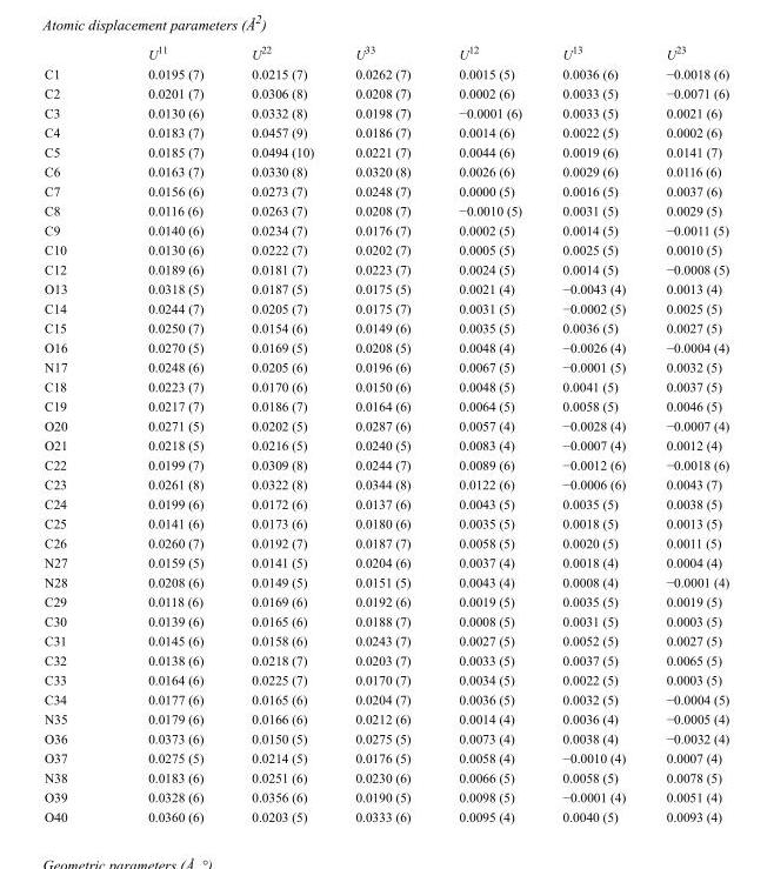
<table><thead><tr><td></td><td>U<sup>11</sup></td><td>U<sup>22</sup></td><td>U<sup>33</sup></td><td>U<sup>12</sup></td><td>U<sup>13</sup></td><td>U<sup>23</sup></td></tr></thead><tbody><tr><td>C1</td><td>0.0195 (7)</td><td>0.0215 (7)</td><td>0.0262 (7)</td><td>0.0015 (5)</td><td>0.0036 (6)</td><td>−0.0018 (6)</td></tr><tr><td>C2</td><td>0.0201 (7)</td><td>0.0306 (8)</td><td>0.0208 (7)</td><td>0.0002 (6)</td><td>0.0033 (5)</td><td>−0.0071 (6)</td></tr><tr><td>C3</td><td>0.0130 (6)</td><td>0.0332 (8)</td><td>0.0198 (7)</td><td>−0.0001 (6)</td><td>0.0033 (5)</td><td>0.0021 (6)</td></tr><tr><td>C4</td><td>0.0183 (7)</td><td>0.0457 (9)</td><td>0.0186 (7)</td><td>0.0014 (6)</td><td>0.0022 (5)</td><td>0.0002 (6)</td></tr><tr><td>C5</td><td>0.0185 (7)</td><td>0.0494 (10)</td><td>0.0221 (7)</td><td>0.0044 (6)</td><td>0.0019 (6)</td><td>0.0141 (7)</td></tr><tr><td>C6</td><td>0.0163 (7)</td><td>0.0330 (8)</td><td>0.0320 (8)</td><td>0.0026 (6)</td><td>0.0029 (6)</td><td>0.0116 (6)</td></tr><tr><td>C7</td><td>0.0156 (6)</td><td>0.0273 (7)</td><td>0.0248 (7)</td><td>0.0000 (5)</td><td>0.0016 (5)</td><td>0.0037 (6)</td></tr><tr><td>C8</td><td>0.0116 (6)</td><td>0.0263 (7)</td><td>0.0208 (7)</td><td>−0.0010 (5)</td><td>0.0031 (5)</td><td>0.0029 (5)</td></tr><tr><td>C9</td><td>0.0140 (6)</td><td>0.0234 (7)</td><td>0.0176 (7)</td><td>0.0002 (5)</td><td>0.0014 (5)</td><td>−0.0011 (5)</td></tr><tr><td>C10</td><td>0.0130 (6)</td><td>0.0222 (7)</td><td>0.0202 (7)</td><td>0.0005 (5)</td><td>0.0025 (5)</td><td>0.0010 (5)</td></tr><tr><td>C12</td><td>0.0189 (6)</td><td>0.0181 (7)</td><td>0.0223 (7)</td><td>0.0024 (5)</td><td>0.0014 (5)</td><td>−0.0008 (5)</td></tr><tr><td>O13</td><td>0.0318 (5)</td><td>0.0187 (5)</td><td>0.0175 (5)</td><td>0.0021 (4)</td><td>−0.0043 (4)</td><td>0.0013 (4)</td></tr><tr><td>C14</td><td>0.0244 (7)</td><td>0.0205 (7)</td><td>0.0175 (7)</td><td>0.0031 (5)</td><td>−0.0002 (5)</td><td>0.0025 (5)</td></tr><tr><td>C15</td><td>0.0250 (7)</td><td>0.0154 (6)</td><td>0.0149 (6)</td><td>0.0035 (5)</td><td>0.0036 (5)</td><td>0.0027 (5)</td></tr><tr><td>O16</td><td>0.0270 (5)</td><td>0.0169 (5)</td><td>0.0208 (5)</td><td>0.0048 (4)</td><td>−0.0026 (4)</td><td>−0.0004 (4)</td></tr><tr><td>N17</td><td>0.0248 (6)</td><td>0.0205 (6)</td><td>0.0196 (6)</td><td>0.0067 (5)</td><td>−0.0001 (5)</td><td>0.0032 (5)</td></tr><tr><td>C18</td><td>0.0223 (7)</td><td>0.0170 (6)</td><td>0.0150 (6)</td><td>0.0048 (5)</td><td>0.0041 (5)</td><td>0.0037 (5)</td></tr><tr><td>C19</td><td>0.0217 (7)</td><td>0.0186 (7)</td><td>0.0164 (6)</td><td>0.0064 (5)</td><td>0.0058 (5)</td><td>0.0046 (5)</td></tr><tr><td>O20</td><td>0.0271 (5)</td><td>0.0202 (5)</td><td>0.0287 (6)</td><td>0.0057 (4)</td><td>−0.0028 (4)</td><td>−0.0007 (4)</td></tr><tr><td>O21</td><td>0.0218 (5)</td><td>0.0216 (5)</td><td>0.0240 (5)</td><td>0.0083 (4)</td><td>−0.0007 (4)</td><td>0.0012 (4)</td></tr><tr><td>C22</td><td>0.0199 (7)</td><td>0.0309 (8)</td><td>0.0244 (7)</td><td>0.0089 (6)</td><td>−0.0012 (6)</td><td>−0.0018 (6)</td></tr><tr><td>C23</td><td>0.0261 (8)</td><td>0.0322 (8)</td><td>0.0344 (8)</td><td>0.0122 (6)</td><td>−0.0006 (6)</td><td>0.0043 (7)</td></tr><tr><td>C24</td><td>0.0199 (6)</td><td>0.0172 (6)</td><td>0.0137 (6)</td><td>0.0043 (5)</td><td>0.0035 (5)</td><td>0.0038 (5)</td></tr><tr><td>C25</td><td>0.0141 (6)</td><td>0.0173 (6)</td><td>0.0180 (6)</td><td>0.0035 (5)</td><td>0.0018 (5)</td><td>0.0013 (5)</td></tr><tr><td>C26</td><td>0.0260 (7)</td><td>0.0192 (7)</td><td>0.0187 (7)</td><td>0.0058 (5)</td><td>0.0020 (5)</td><td>0.0011 (5)</td></tr><tr><td>N27</td><td>0.0159 (5)</td><td>0.0141 (5)</td><td>0.0204 (6)</td><td>0.0037 (4)</td><td>0.0018 (4)</td><td>0.0004 (4)</td></tr><tr><td>N28</td><td>0.0208 (6)</td><td>0.0149 (5)</td><td>0.0151 (5)</td><td>0.0043 (4)</td><td>0.0008 (4)</td><td>−0.0001 (4)</td></tr><tr><td>C29</td><td>0.0118 (6)</td><td>0.0169 (6)</td><td>0.0192 (6)</td><td>0.0019 (5)</td><td>0.0035 (5)</td><td>0.0019 (5)</td></tr><tr><td>C30</td><td>0.0139 (6)</td><td>0.0165 (6)</td><td>0.0188 (7)</td><td>0.0008 (5)</td><td>0.0031 (5)</td><td>0.0003 (5)</td></tr><tr><td>C31</td><td>0.0145 (6)</td><td>0.0158 (6)</td><td>0.0243 (7)</td><td>0.0027 (5)</td><td>0.0052 (5)</td><td>0.0027 (5)</td></tr><tr><td>C32</td><td>0.0138 (6)</td><td>0.0218 (7)</td><td>0.0203 (7)</td><td>0.0033 (5)</td><td>0.0037 (5)</td><td>0.0065 (5)</td></tr><tr><td>C33</td><td>0.0164 (6)</td><td>0.0225 (7)</td><td>0.0170 (7)</td><td>0.0034 (5)</td><td>0.0022 (5)</td><td>0.0003 (5)</td></tr><tr><td>C34</td><td>0.0177 (6)</td><td>0.0165 (6)</td><td>0.0204 (7)</td><td>0.0036 (5)</td><td>0.0032 (5)</td><td>−0.0004 (5)</td></tr><tr><td>N35</td><td>0.0179 (6)</td><td>0.0166 (6)</td><td>0.0212 (6)</td><td>0.0014 (4)</td><td>0.0036 (4)</td><td>−0.0005 (4)</td></tr><tr><td>O36</td><td>0.0373 (6)</td><td>0.0150 (5)</td><td>0.0275 (5)</td><td>0.0073 (4)</td><td>0.0038 (4)</td><td>−0.0032 (4)</td></tr><tr><td>O37</td><td>0.0275 (5)</td><td>0.0214 (5)</td><td>0.0176 (5)</td><td>0.0058 (4)</td><td>−0.0010 (4)</td><td>0.0007 (4)</td></tr><tr><td>N38</td><td>0.0183 (6)</td><td>0.0251 (6)</td><td>0.0230 (6)</td><td>0.0066 (5)</td><td>0.0058 (5)</td><td>0.0078 (5)</td></tr><tr><td>O39</td><td>0.0328 (6)</td><td>0.0356 (6)</td><td>0.0190 (5)</td><td>0.0098 (5)</td><td>−0.0001 (4)</td><td>0.0051 (4)</td></tr><tr><td>O40</td><td>0.0360 (6)</td><td>0.0203 (5)</td><td>0.0333 (6)</td><td>0.0095 (4)</td><td>0.0040 (5)</td><td>0.0093 (4)</td></tr></tbody></table>